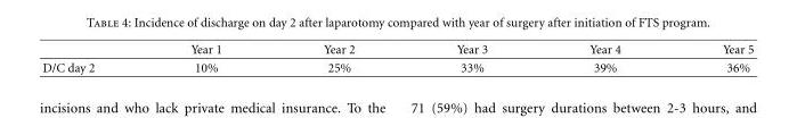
<table><thead><tr><td></td><td>Year 1</td><td>Year 2</td><td>Year 3</td><td>Year 4</td><td>Year 5</td></tr></thead><tbody><tr><td>D/C day 2</td><td>10%</td><td>25%</td><td>33%</td><td>39%</td><td>36%</td></tr></tbody></table>